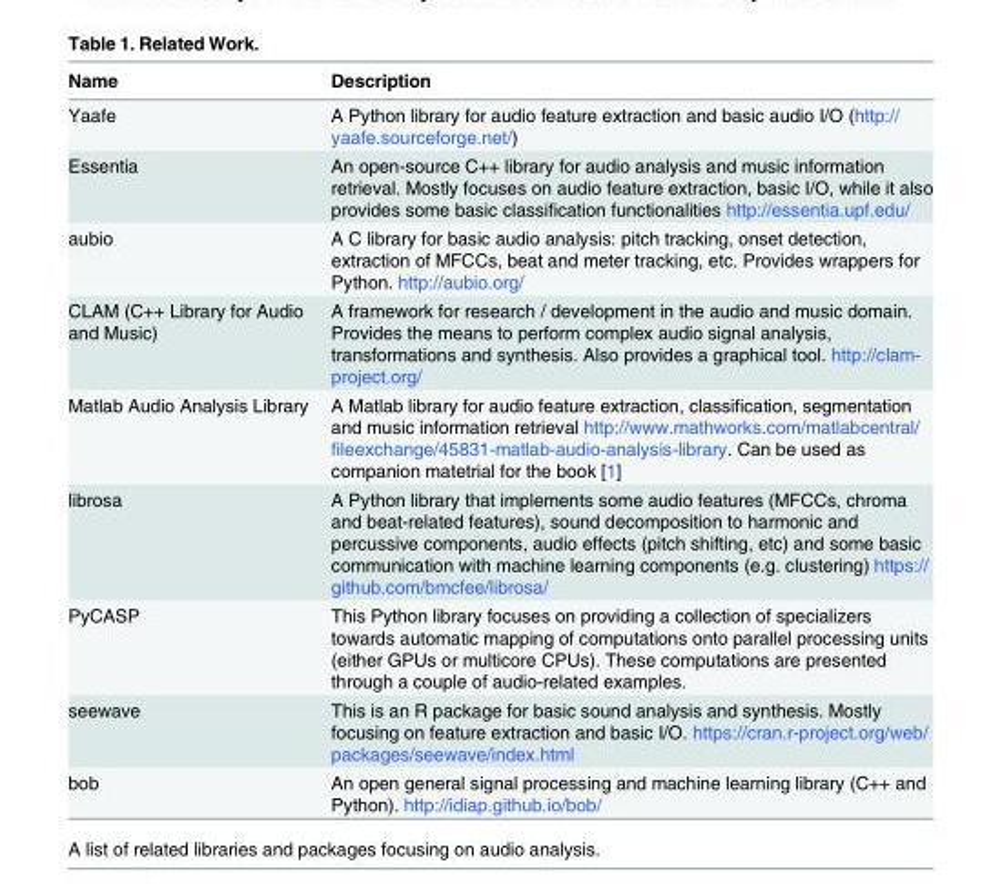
<table><thead><tr><td>Name</td><td>Description</td></tr></thead><tbody><tr><td>Yaafe</td><td>A Python library for audio feature extraction and basic audio I/O (http:// yaafe.sourceforge.net/)</td></tr><tr><td>Essentia</td><td>An open-source C++ library for audio analysis and music information retrieval. Mostly focuses on audio feature extraction, basic I/O, while it also provides some basic classification functionalities http://essentia.upf.edu/</td></tr><tr><td>aubio</td><td>A C library for basic audio analysis: pitch tracking, onset detection, extraction of MFCCs, beat and meter tracking, etc. Provides wrappers for Python. http://aubio.org/</td></tr><tr><td>CLAM (C++ Library for Audio and Music)</td><td>A framework for research / development in the audio and music domain. Provides the means to perform complex audio signal analysis, transformations and synthesis. Also provides a graphical tool. http://clam- project.org/</td></tr><tr><td>Matlab Audio Analysis Library</td><td>A Matlab library for audio feature extraction, classification, segmentation and music information retrieval http://www.mathworks.com/matlabcentral/ fileexchange/45831-matlab-audio-analysis-library. Can be used as companion matetrial for the book [1]</td></tr><tr><td>librosa</td><td>A Python library that implements some audio features (MFCCs, chroma and beat-related features), sound decomposition to harmonic and percussive components, audio effects (pitch shifting, etc) and some basic communication with machine learning components (e.g. clustering) https:// github.com/bmcfee/librosa/</td></tr><tr><td>PyCASP</td><td>This Python library focuses on providing a collection of specializers towards automatic mapping of computations onto parallel processing units (either GPUs or multicore CPUs). These computations are presented through a couple of audio-related examples.</td></tr><tr><td>seewave</td><td>This is an R package for basic sound analysis and synthesis. Mostly focusing on feature extraction and basic I/O. https://cran.r-project.org/web/ packages/seewave/index.html</td></tr><tr><td>bob</td><td>An open general signal processing and machine learning library (C++ and Python). http://idiap.github.io/bob/</td></tr></tbody></table>